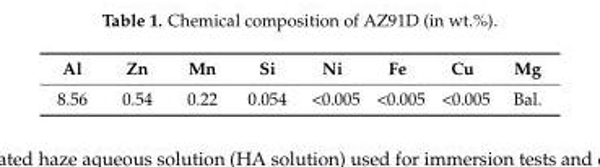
<table><thead><tr><td>Al</td><td>Zn</td><td>Mn</td><td>Si</td><td>Ni</td><td>Fe</td><td>Cu</td><td>Mg</td></tr></thead><tbody><tr><td>8.56</td><td>0.54</td><td>0.22</td><td>0.054</td><td>&lt;0.005</td><td>&lt;0.005</td><td>&lt;0.005</td><td>Bal.</td></tr></tbody></table>